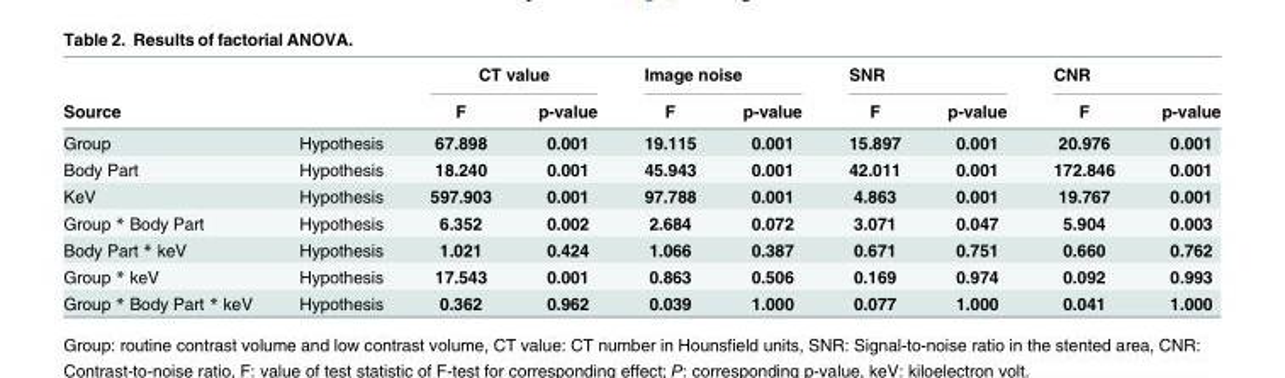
<table><thead><tr><td rowspan="2">Source</td><td rowspan="2"></td><td colspan="2">CT value</td><td colspan="2">Image noise</td><td colspan="2">SNR</td><td colspan="2">CNR</td></tr><tr><td>F</td><td>p-value</td><td>F</td><td>p-value</td><td>F</td><td>p-value</td><td>F</td><td>p-value</td></tr></thead><tbody><tr><td>Group</td><td>Hypothesis</td><td>67.898</td><td>0.001</td><td>19.115</td><td>0.001</td><td>15.897</td><td>0.001</td><td>20.976</td><td>0.001</td></tr><tr><td>Body Part</td><td>Hypothesis</td><td>18.240</td><td>0.001</td><td>45.943</td><td>0.001</td><td>42.011</td><td>0.001</td><td>172.846</td><td>0.001</td></tr><tr><td>KeV</td><td>Hypothesis</td><td>597.903</td><td>0.001</td><td>97.788</td><td>0.001</td><td>4.863</td><td>0.001</td><td>19.767</td><td>0.001</td></tr><tr><td>Group * Body Part</td><td>Hypothesis</td><td>6.352</td><td>0.002</td><td>2.684</td><td>0.072</td><td>3.071</td><td>0.047</td><td>5.904</td><td>0.003</td></tr><tr><td>Body Part * keV</td><td>Hypothesis</td><td>1.021</td><td>0.424</td><td>1.066</td><td>0.387</td><td>0.671</td><td>0.751</td><td>0.660</td><td>0.762</td></tr><tr><td>Group * keV</td><td>Hypothesis</td><td>17.543</td><td>0.001</td><td>0.863</td><td>0.506</td><td>0.169</td><td>0.974</td><td>0.092</td><td>0.993</td></tr><tr><td>Group * Body Part * keV</td><td>Hypothesis</td><td>0.362</td><td>0.962</td><td>0.039</td><td>1.000</td><td>0.077</td><td>1.000</td><td>0.041</td><td>1.000</td></tr></tbody></table>